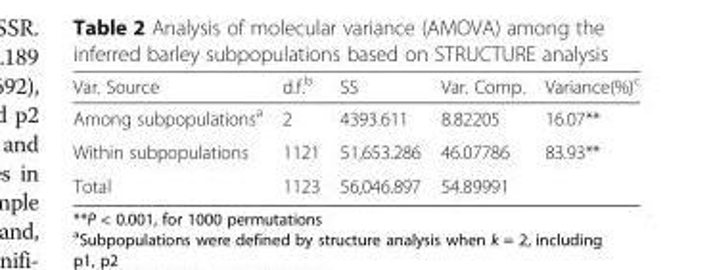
<table><thead><tr><td>Var. Source</td><td>d.f.<sup>b</sup></td><td>SS</td><td>Var. Comp.</td><td>Variance(%)<sup>c</sup></td></tr></thead><tbody><tr><td>Among subpopulations<sup>a</sup></td><td>2</td><td>4393.611</td><td>8.82205</td><td>16.07**</td></tr><tr><td>Within subpopulations</td><td>1121</td><td>51,653.286</td><td>46.07786</td><td>83.93**</td></tr><tr><td>Total</td><td>1123</td><td>56,046.897</td><td>54.89991</td><td></td></tr></tbody></table>